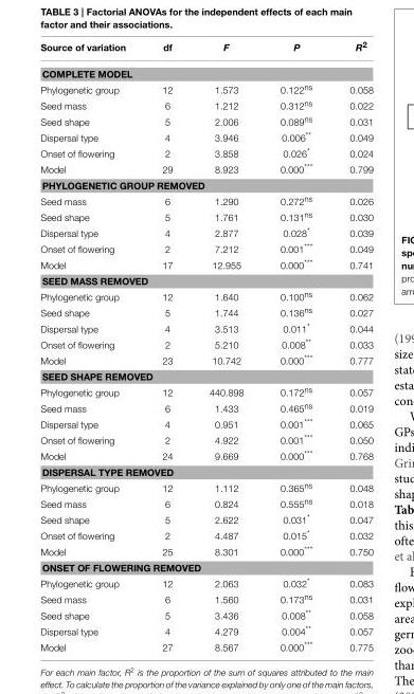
<table><thead><tr><td>Source of variation</td><td>df</td><td>F</td><td>P</td><td>R<sup>2</sup></td></tr></thead><tbody><tr><td colspan="5">COMPLETE MODEL</td></tr><tr><td>Phylogenetic group</td><td>12</td><td>1.573</td><td>0.122<sup>ns</sup></td><td>0.058</td></tr><tr><td>Seed mass</td><td>6</td><td>1.212</td><td>0.312<sup>ns</sup></td><td>0.022</td></tr><tr><td>Seed shape</td><td>5</td><td>2.006</td><td>0.089<sup>ns</sup></td><td>0.031</td></tr><tr><td>Dispersal type</td><td>4</td><td>3.946</td><td>0.006**</td><td>0.049</td></tr><tr><td>Onset of flowering</td><td>2</td><td>3.858</td><td>0.026*</td><td>0.024</td></tr><tr><td>Model</td><td>29</td><td>8.923</td><td>0.000***</td><td>0.799</td></tr><tr><td colspan="5">PHYLOGENETIC GROUP REMOVED</td></tr><tr><td>Seed mass</td><td>6</td><td>1.290</td><td>0.272<sup>ns</sup></td><td>0.026</td></tr><tr><td>Seed shape</td><td>5</td><td>1.761</td><td>0.131<sup>ns</sup></td><td>0.030</td></tr><tr><td>Dispersal type</td><td>4</td><td>2.877</td><td>0.028*</td><td>0.039</td></tr><tr><td>Onset of flowering</td><td>2</td><td>7.212</td><td>0.001***</td><td>0.049</td></tr><tr><td>Model</td><td>17</td><td>12.955</td><td>0.000***</td><td>0.741</td></tr><tr><td colspan="5">SEED MASS REMOVED</td></tr><tr><td>Phylogenetic group</td><td>12</td><td>1.640</td><td>0.100<sup>ns</sup></td><td>0.062</td></tr><tr><td>Seed shape</td><td>5</td><td>1.744</td><td>0.136<sup>ns</sup></td><td>0.027</td></tr><tr><td>Dispersal type</td><td>4</td><td>3.513</td><td>0.011*</td><td>0.044</td></tr><tr><td>Onset of flowering</td><td>2</td><td>5.210</td><td>0.008**</td><td>0.033</td></tr><tr><td>Model</td><td>23</td><td>10.742</td><td>0.000***</td><td>0.777</td></tr><tr><td colspan="5">SEED SHAPE REMOVED</td></tr><tr><td>Phylogenetic group</td><td>12</td><td>440.898</td><td>0.172<sup>ns</sup></td><td>0.057</td></tr><tr><td>Seed mass</td><td>6</td><td>1.433</td><td>0.465<sup>ns</sup></td><td>0.019</td></tr><tr><td>Dispersal type</td><td>4</td><td>0.951</td><td>0.001***</td><td>0.065</td></tr><tr><td>Onset of flowering</td><td>2</td><td>4.922</td><td>0.001***</td><td>0.050</td></tr><tr><td>Model</td><td>24</td><td>9.669</td><td>0.000***</td><td>0.768</td></tr><tr><td colspan="5">DISPERSAL TYPE REMOVED</td></tr><tr><td>Phylogenetic group</td><td>12</td><td>1.112</td><td>0.365<sup>ns</sup></td><td>0.048</td></tr><tr><td>Seed mass</td><td>6</td><td>0.824</td><td>0.555<sup>ns</sup></td><td>0.018</td></tr><tr><td>Seed shape</td><td>5</td><td>2.622</td><td>0.031*</td><td>0.047</td></tr><tr><td>Onset of flowering</td><td>2</td><td>4.487</td><td>0.015*</td><td>0.032</td></tr><tr><td>Model</td><td>25</td><td>8.301</td><td>0.000***</td><td>0.750</td></tr><tr><td colspan="5">ONSET OF FLOWERING REMOVED</td></tr><tr><td>Phylogenetic group</td><td>12</td><td>2.063</td><td>0.032*</td><td>0.083</td></tr><tr><td>Seed mass</td><td>6</td><td>1.560</td><td>0.173<sup>ns</sup></td><td>0.031</td></tr><tr><td>Seed shape</td><td>5</td><td>3.436</td><td>0.008**</td><td>0.058</td></tr><tr><td>Dispersal type</td><td>4</td><td>4.279</td><td>0.004**</td><td>0.057</td></tr><tr><td>Model</td><td>27</td><td>8.567</td><td>0.000***</td><td>0.775</td></tr></tbody></table>